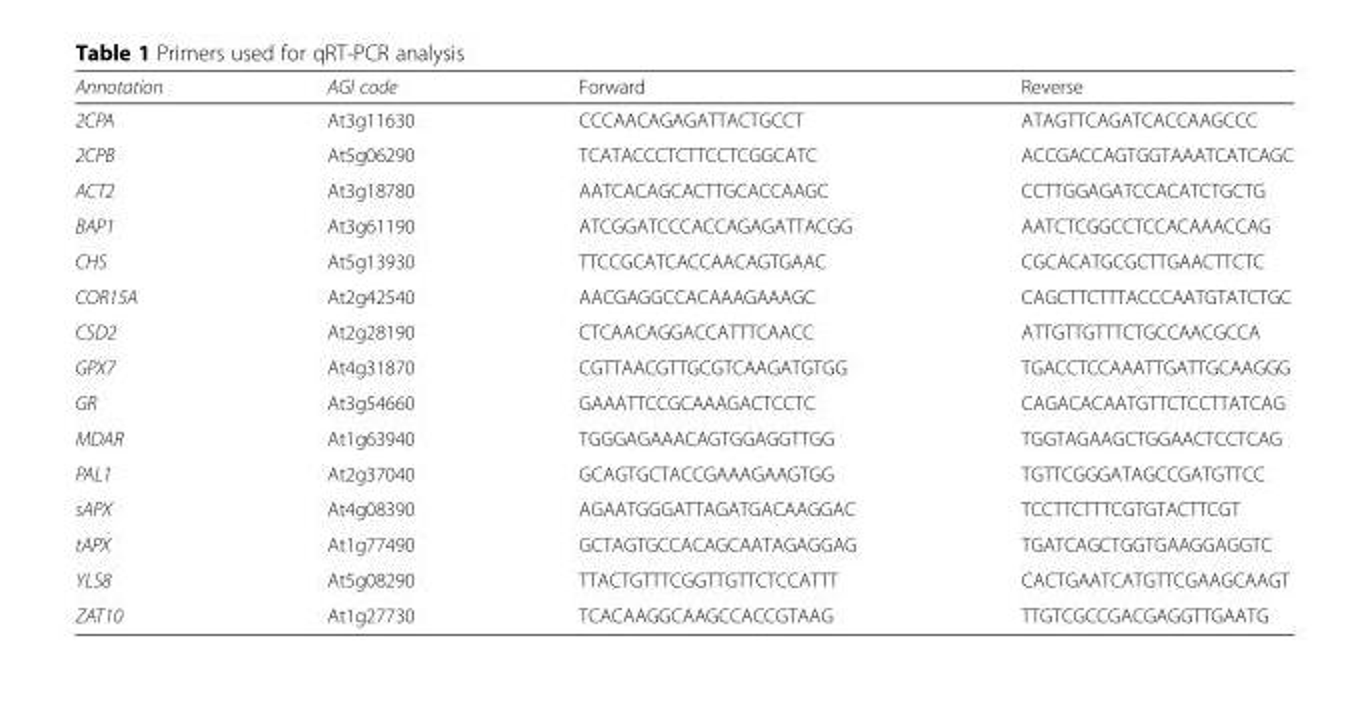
<table><thead><tr><td>Annotation</td><td>AGI code</td><td>Forward</td><td>Reverse</td></tr></thead><tbody><tr><td>2CPA</td><td>At3g11630</td><td>CCCAACAGAGATTACTGCCT</td><td>ATAGTTCAGATCACCAAGCCC</td></tr><tr><td>2CPB</td><td>At5g06290</td><td>TCATACCCTCTTCCTCGGCATC</td><td>ACCGACCAGTGGTAAATCATCAGC</td></tr><tr><td>ACT2</td><td>At3g18780</td><td>AATCACAGCACTTGCACCAAGC</td><td>CCTTGGAGATCCACATCTGCTG</td></tr><tr><td>BAP1</td><td>At3g61190</td><td>ATCGGATCCCACCAGAGATTACGG</td><td>AATCTCGGCCTCCACAAACCAG</td></tr><tr><td>CHS</td><td>At5g13930</td><td>TTCCGCATCACCAACAGTGAAC</td><td>CGCACATGCGCTTGAACTTCTC</td></tr><tr><td>COR15A</td><td>At2g42540</td><td>AACGAGGCCACAAAGAAAGC</td><td>CAGCTTCTTTACCCAATGTATCTGC</td></tr><tr><td>CSD2</td><td>At2g28190</td><td>CTCAACAGGACCATTTCAACC</td><td>ATTGTTGTTTCTGCCAACGCCA</td></tr><tr><td>GPX7</td><td>At4g31870</td><td>CGTTAACGTTGCGTCAAGATGTGG</td><td>TGACCTCCAAATTGATTGCAAGGG</td></tr><tr><td>GR</td><td>At3g54660</td><td>GAAATTCCGCAAAGACTCCTC</td><td>CAGACACAATGTTCTCCTTATCAG</td></tr><tr><td>MDAR</td><td>At1g63940</td><td>TGGGAGAAACAGTGGAGGTTGG</td><td>TGGTAGAAGCTGGAACTCCTCAG</td></tr><tr><td>PAL1</td><td>At2g37040</td><td>GCAGTGCTACCGAAAGAAGTGG</td><td>TGTTCGGGATAGCCGATGTTCC</td></tr><tr><td>sAPX</td><td>At4g08390</td><td>AGAATGGGATTAGATGACAAGGAC</td><td>TCCTTCTTTCGTGTACTTCGT</td></tr><tr><td>tAPX</td><td>At1g77490</td><td>GCTAGTGCCACAGCAATAGAGGAG</td><td>TGATCAGCTGGTGAAGGAGGTC</td></tr><tr><td>YLS8</td><td>At5g08290</td><td>TTACTGTTTCGGTTGTTCTCCATTT</td><td>CACTGAATCATGTTCGAAGCAAGT</td></tr><tr><td>ZAT10</td><td>At1g27730</td><td>TCACAAGGCAAGCCACCGTAAG</td><td>TTGTCGCCGACGAGGTTGAATG</td></tr></tbody></table>